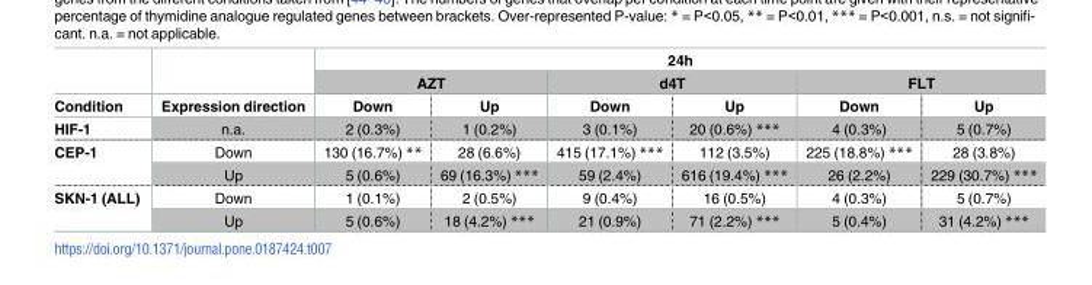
<table><thead><tr><td rowspan="3">Condition</td><td rowspan="3">Expression direction</td><td colspan="6">24h</td></tr><tr><td colspan="2">AZT</td><td colspan="2">d4T</td><td colspan="2">FLT</td></tr><tr><td>Down</td><td>Up</td><td>Down</td><td>Up</td><td>Down</td><td>Up</td></tr></thead><tbody><tr><td>HIF-1</td><td>n.a.</td><td>2 (0.3%)</td><td>1 (0.2%)</td><td>3 (0.1%)</td><td>20 (0.6%) ***</td><td>4 (0.3%)</td><td>5 (0.7%)</td></tr><tr><td rowspan="2">CEP-1</td><td>Down</td><td>130 (16.7%) **</td><td>28 (6.6%)</td><td>415 (17.1%) ***</td><td>112 (3.5%)</td><td>225 (18.8%) ***</td><td>28 (3.8%)</td></tr><tr><td>Up</td><td>5 (0.6%)</td><td>69 (16.3%) ***</td><td>59 (2.4%)</td><td>616 (19.4%) ***</td><td>26 (2.2%)</td><td>229 (30.7%) ***</td></tr><tr><td rowspan="2">SKN-1 (ALL)</td><td>Down</td><td>1 (0.1%)</td><td>2 (0.5%)</td><td>9 (0.4%)</td><td>16 (0.5%)</td><td>4 (0.3%)</td><td>5 (0.7%)</td></tr><tr><td>Up</td><td>5 (0.6%)</td><td>18 (4.2%) ***</td><td>21 (0.9%)</td><td>71 (2.2%) ***</td><td>5 (0.4%)</td><td>31 (4.2%) ***</td></tr></tbody></table>